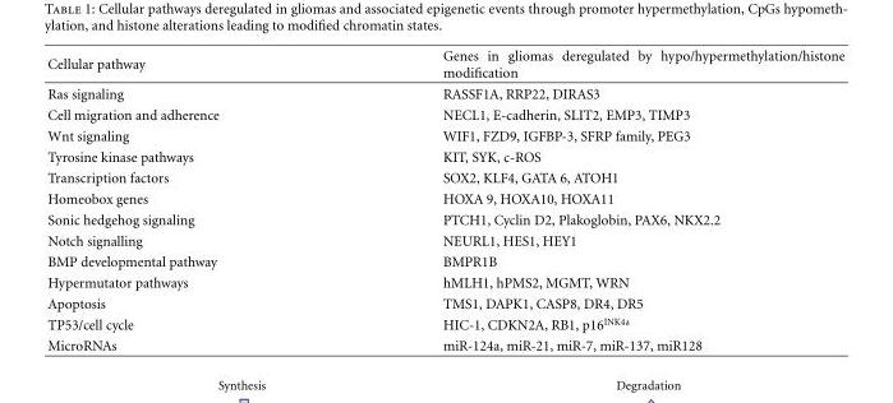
<table><thead><tr><td>Cellular pathway</td><td>Genes in gliomas deregulated by hypo/hypermethylation/histone modification</td></tr></thead><tbody><tr><td>Ras signaling</td><td>RASSF1A, RRP22, DIRAS3</td></tr><tr><td>Cell migration and adherence</td><td>NECL1, E-cadherin, SLIT2, EMP3, TIMP3</td></tr><tr><td>Wnt signaling</td><td>WIF1, FZD9, IGFBP-3, SFRP family, PEG3</td></tr><tr><td>Tyrosine kinase pathways</td><td>KIT, SYK, c-ROS</td></tr><tr><td>Transcription factors</td><td>SOX2, KLF4, GATA 6, ATOH1</td></tr><tr><td>Homeobox genes</td><td>HOXA 9, HOXA10, HOXA11</td></tr><tr><td>Sonic hedgehog signaling</td><td>PTCH1, Cyclin D2, Plakoglobin, PAX6, NKX2.2</td></tr><tr><td>Notch signalling</td><td>NEURL1, HES1, HEY1</td></tr><tr><td>BMP developmental pathway</td><td>BMPR1B</td></tr><tr><td>Hypermutator pathways</td><td>hMLH1, hPMS2, MGMT, WRN</td></tr><tr><td>Apoptosis</td><td>TMS1, DAPK1, CASP8, DR4, DR5</td></tr><tr><td>TP53/cell cycle</td><td>HIC-1, CDKN2A, RB1, p16<sup>INK4a</sup></td></tr><tr><td>MicroRNAs</td><td>miR-124a, miR-21, miR-7, miR-137, miR128</td></tr></tbody></table>